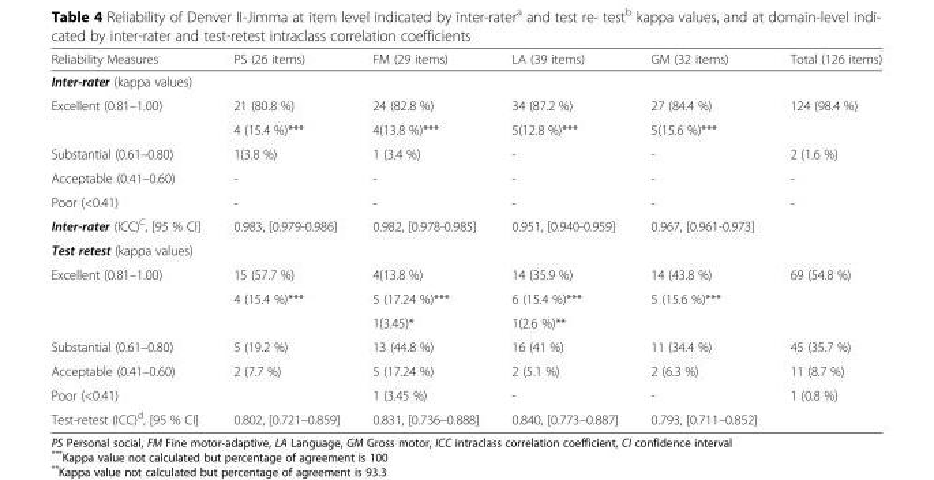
<table><thead><tr><td>Reliability Measures</td><td>PS (26 items)</td><td>FM (29 items)</td><td>LA (39 items)</td><td>GM (32 items)</td><td>Total (126 items)</td></tr></thead><tbody><tr><td colspan="6">Inter-rater (kappa values)</td></tr><tr><td rowspan="2">Excellent (0.81–1.00)</td><td>21 (80.8 %)</td><td>24 (82.8 %)</td><td>34 (87.2 %)</td><td>27 (84.4 %)</td><td rowspan="2">124 (98.4 %)</td></tr><tr><td>4 (15.4 %)***</td><td>4(13.8 %)***</td><td>5(12.8 %)***</td><td>5(15.6 %)***</td></tr><tr><td>Substantial (0.61–0.80)</td><td>1(3.8 %)</td><td>1 (3.4 %)</td><td>-</td><td>-</td><td>2 (1.6 %)</td></tr><tr><td>Acceptable (0.41–0.60)</td><td>-</td><td>-</td><td>-</td><td>-</td><td>-</td></tr><tr><td>Poor (&lt;0.41)</td><td>-</td><td>-</td><td>-</td><td>-</td><td>-</td></tr><tr><td>Inter-rater (ICC)<sup>C</sup>, [95 % CI]</td><td>0.983, [0.979-0.986]</td><td>0.982, [0.978-0.985]</td><td>0.951, [0.940-0.959]</td><td>0.967, [0.961-0.973]</td><td></td></tr><tr><td colspan="6">Test retest (kappa values)</td></tr><tr><td rowspan="3">Excellent (0.81–1.00)</td><td>15 (57.7 %)</td><td>4(13.8 %)</td><td>14 (35.9 %)</td><td>14 (43.8 %)</td><td rowspan="3">69 (54.8 %)</td></tr><tr><td rowspan="2">4 (15.4 %)***</td><td>5 (17.24 %)***</td><td>6 (15.4 %)***</td><td rowspan="2">5 (15.6 %)***</td></tr><tr><td>1(3.45)*</td><td>1(2.6 %)**</td></tr><tr><td>Substantial (0.61–0.80)</td><td>5 (19.2 %)</td><td>13 (44.8 %)</td><td>16 (41 %)</td><td>11 (34.4 %)</td><td>45 (35.7 %)</td></tr><tr><td>Acceptable (0.41–0.60)</td><td>2 (7.7 %)</td><td>5 (17.24 %)</td><td>2 (5.1 %)</td><td>2 (6.3 %)</td><td>11 (8.7 %)</td></tr><tr><td>Poor (&lt;0.41)</td><td></td><td>1 (3.45 %)</td><td>-</td><td>-</td><td>1 (0.8 %)</td></tr><tr><td>Test-retest (ICC)<sup>d</sup>, [95 % CI]</td><td>0.802, [0.721–0.859]</td><td>0.831, [0.736–0.888]</td><td>0.840, [0.773–0.887]</td><td>0.793, [0.711–0.852]</td><td></td></tr></tbody></table>